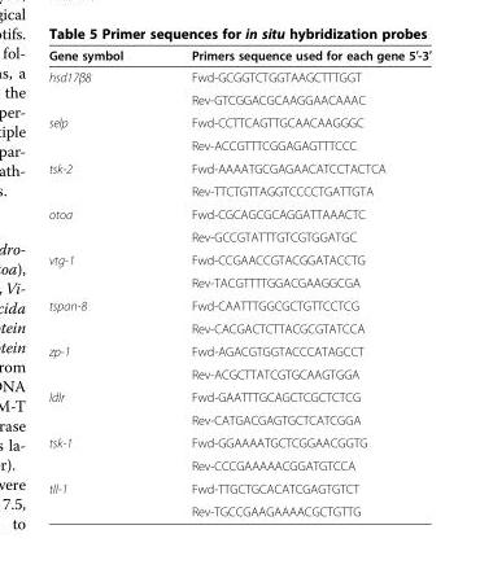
<table><thead><tr><td>Gene symbol</td><td>Primers sequence used for each gene 5′-3′</td></tr></thead><tbody><tr><td rowspan="2">hsd17β8</td><td>Fwd-GCGGTCTGGTAAGCTTTGGT</td></tr><tr><td>Rev-GTCGGACGCAAGGAACAAAC</td></tr><tr><td rowspan="2">selp</td><td>Fwd-CCTTCAGTTGCAACAAGGGC</td></tr><tr><td>Rev-ACCGTTTCGGAGAGTTTCCC</td></tr><tr><td rowspan="2">tsk-2</td><td>Fwd-AAAATGCGAGAACATCCTACTCA</td></tr><tr><td>Rev-TTCTGTTAGGTCCCCTGATTGTA</td></tr><tr><td rowspan="2">otoa</td><td>Fwd-CGCAGCGCAGGATTAAACTC</td></tr><tr><td>Rev-GCCGTATTTGTCGTGGATGC</td></tr><tr><td rowspan="2">vtg-1</td><td>Fwd-CCGAACCGTACGGATACCTG</td></tr><tr><td>Rev-TACGTTTTGGACGAAGGCGA</td></tr><tr><td rowspan="2">tspan-8</td><td>Fwd-CAATTTGGCGCTGTTCCTCG</td></tr><tr><td>Rev-CACGACTCTTACGCGTATCCA</td></tr><tr><td rowspan="2">zp-1</td><td>Fwd-AGACGTGGTACCCATAGCCT</td></tr><tr><td>Rev-ACGCTTATCGTGCAAGTGGA</td></tr><tr><td rowspan="2">ldlr</td><td>Fwd-GAATTTGCAGCTCGCTCTCG</td></tr><tr><td>Rev-CATGACGAGTGCTCATCGGA</td></tr><tr><td rowspan="2">tsk-1</td><td>Fwd-GGAAAATGCTCGGAACGGTG</td></tr><tr><td>Rev-CCCGAAAAACGGATGTCCA</td></tr><tr><td rowspan="2">tll-1</td><td>Fwd-TTGCTGCACATCGAGTGTCT</td></tr><tr><td>Rev-TGCCGAAGAAAACGCTGTTG</td></tr></tbody></table>